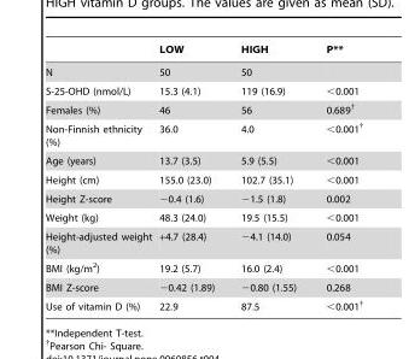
<table><thead><tr><td></td><td>LOW</td><td>HIGH</td><td>P**</td></tr></thead><tbody><tr><td>N</td><td>50</td><td>50</td><td></td></tr><tr><td>S-25-OHD (nmol/L)</td><td>15.3 (4.1)</td><td>119 (16.9)</td><td>&lt;0.001</td></tr><tr><td>Females (%)</td><td>46</td><td>56</td><td>0.689†</td></tr><tr><td>Non-Finnish ethnicity (%)</td><td>36.0</td><td>4.0</td><td>&lt;0.001†</td></tr><tr><td>Age (years)</td><td>13.7 (3.5)</td><td>5.9 (5.5)</td><td>&lt;0.001</td></tr><tr><td>Height (cm)</td><td>155.0 (23.0)</td><td>102.7 (35.1)</td><td>&lt;0.001</td></tr><tr><td>Height Z-score</td><td>−0.4 (1.6)</td><td>−1.5 (1.8)</td><td>0.002</td></tr><tr><td>Weight (kg)</td><td>48.3 (24.0)</td><td>19.5 (15.5)</td><td>&lt;0.001</td></tr><tr><td>Height-adjusted weight (%)</td><td>+4.7 (28.4)</td><td>−4.1 (14.0)</td><td>0.054</td></tr><tr><td>BMI (kg/m<sup>2</sup>)</td><td>19.2 (5.7)</td><td>16.0 (2.4)</td><td>&lt;0.001</td></tr><tr><td>BMI Z-score</td><td>−0.42 (1.89)</td><td>−0.80 (1.55)</td><td>0.268</td></tr><tr><td>Use of vitamin D (%)</td><td>22.9</td><td>87.5</td><td>&lt;0.001†</td></tr></tbody></table>